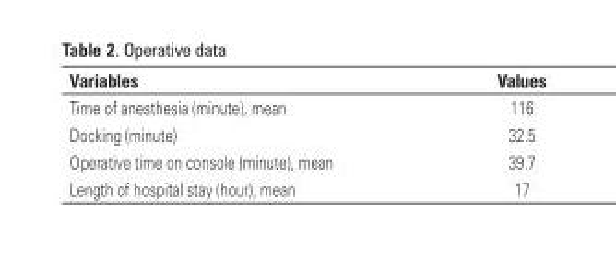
<table><thead><tr><td>Variables</td><td>Values</td></tr></thead><tbody><tr><td>Time of anesthesia (minute), mean</td><td>116</td></tr><tr><td>Docking (minute)</td><td>32.5</td></tr><tr><td>Operative time on console (minute), mean</td><td>39.7</td></tr><tr><td>Length of hospital stay (hour), mean</td><td>17</td></tr></tbody></table>